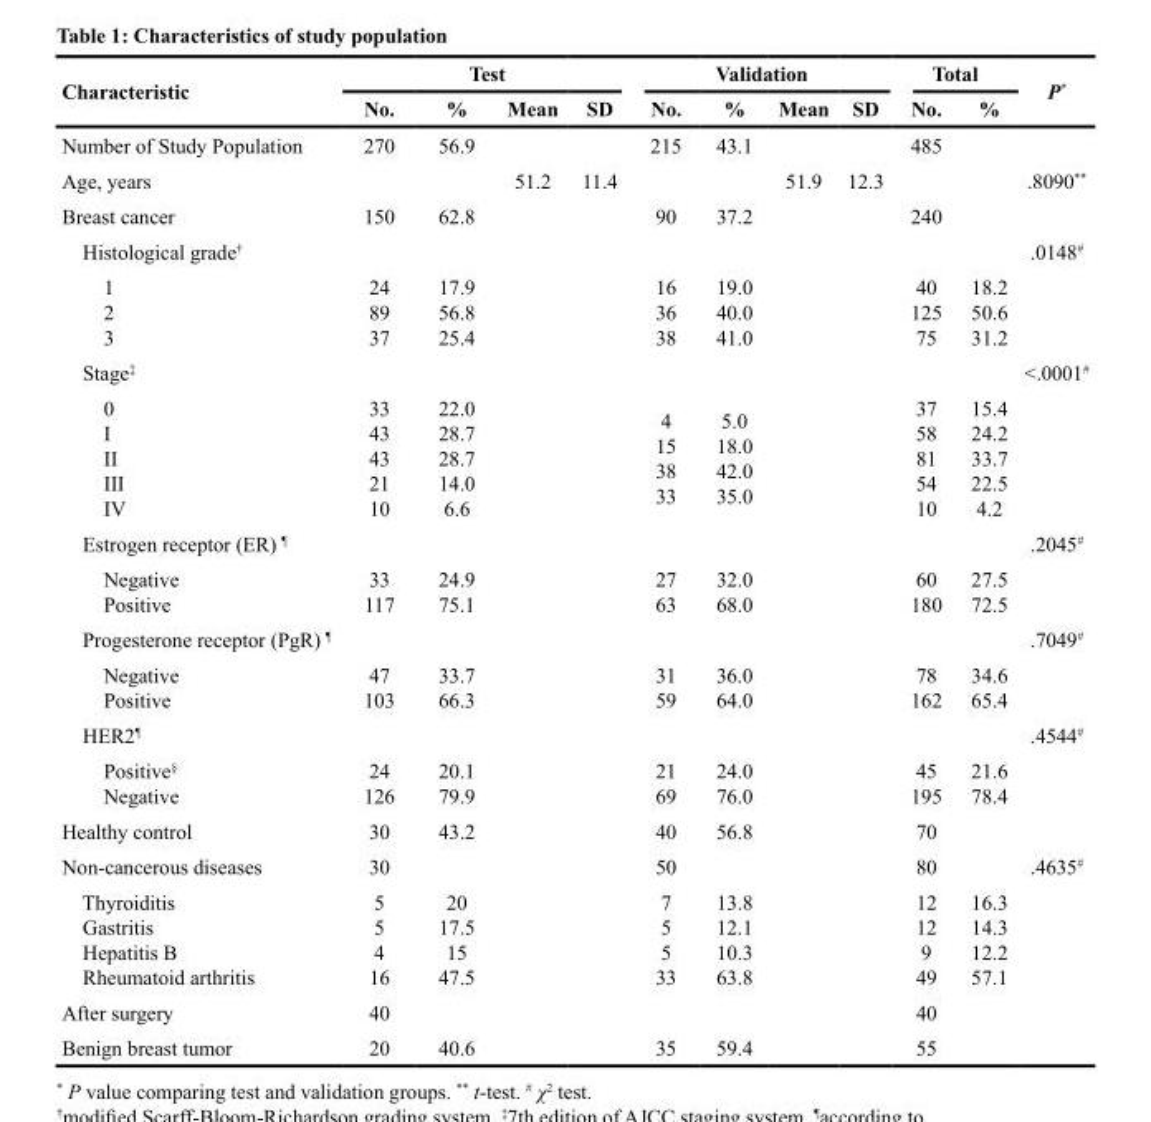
<table><thead><tr><td rowspan="2">Characteristic</td><td colspan="4">Test</td><td colspan="4">Validation</td><td colspan="2">Total</td><td rowspan="2">P*</td></tr><tr><td>No.</td><td>%</td><td>Mean</td><td>SD</td><td>No.</td><td>%</td><td>Mean</td><td>SD</td><td>No.</td><td>%</td></tr></thead><tbody><tr><td>Number of Study Population</td><td>270</td><td>56.9</td><td></td><td></td><td>215</td><td>43.1</td><td></td><td></td><td>485</td><td></td><td></td></tr><tr><td>Age, years</td><td></td><td></td><td>51.2</td><td>11.4</td><td></td><td></td><td>51.9</td><td>12.3</td><td></td><td></td><td>.8090**</td></tr><tr><td>Breast cancer</td><td>150</td><td>62.8</td><td></td><td></td><td>90</td><td>37.2</td><td></td><td></td><td>240</td><td></td><td></td></tr><tr><td>Histological grade<sup>†</sup></td><td></td><td></td><td></td><td></td><td></td><td></td><td></td><td></td><td></td><td></td><td>.0148<sup>#</sup></td></tr><tr><td>1 2 3</td><td>24 89 37</td><td>17.9 56.8 25.4</td><td></td><td></td><td>16 36 38</td><td>19.0 40.0 41.0</td><td></td><td></td><td>40 125 75</td><td>18.2 50.6 31.2</td><td></td></tr><tr><td>Stage<sup>‡</sup></td><td></td><td></td><td></td><td></td><td></td><td></td><td></td><td></td><td></td><td></td><td>&lt;.0001<sup>#</sup></td></tr><tr><td>0 I II III IV</td><td>33 43 43 21 10</td><td>22.0 28.7 28.7 14.0 6.6</td><td></td><td></td><td>4 15 38 33</td><td>5.0 18.0 42.0 35.0</td><td></td><td></td><td>37 58 81 54 10</td><td>15.4 24.2 33.7 22.5 4.2</td><td></td></tr><tr><td>Estrogen receptor (ER) <sup>¶</sup></td><td></td><td></td><td></td><td></td><td></td><td></td><td></td><td></td><td></td><td></td><td>.2045<sup>#</sup></td></tr><tr><td>Negative Positive</td><td>33 117</td><td>24.9 75.1</td><td></td><td></td><td>27 63</td><td>32.0 68.0</td><td></td><td></td><td>60 180</td><td>27.5 72.5</td><td></td></tr><tr><td>Progesterone receptor (PgR) <sup>¶</sup></td><td></td><td></td><td></td><td></td><td></td><td></td><td></td><td></td><td></td><td></td><td>.7049<sup>#</sup></td></tr><tr><td>Negative Positive</td><td>47 103</td><td>33.7 66.3</td><td></td><td></td><td>31 59</td><td>36.0 64.0</td><td></td><td></td><td>78 162</td><td>34.6 65.4</td><td></td></tr><tr><td>HER2<sup>¶</sup></td><td></td><td></td><td></td><td></td><td></td><td></td><td></td><td></td><td></td><td></td><td>.4544<sup>#</sup></td></tr><tr><td>Positive<sup>§</sup> Negative</td><td>24 126</td><td>20.1 79.9</td><td></td><td></td><td>21 69</td><td>24.0 76.0</td><td></td><td></td><td>45 195</td><td>21.6 78.4</td><td></td></tr><tr><td>Healthy control</td><td>30</td><td>43.2</td><td></td><td></td><td>40</td><td>56.8</td><td></td><td></td><td>70</td><td></td><td></td></tr><tr><td>Non-cancerous diseases</td><td>30</td><td></td><td></td><td></td><td>50</td><td></td><td></td><td></td><td>80</td><td></td><td>.4635<sup>#</sup></td></tr><tr><td>Thyroiditis Gastritis Hepatitis B Rheumatoid arthritis</td><td>5 5 4 16</td><td>20 17.5 15 47.5</td><td></td><td></td><td>7 5 5 33</td><td>13.8 12.1 10.3 63.8</td><td></td><td></td><td>12 12 9 49</td><td>16.3 14.3 12.2 57.1</td><td></td></tr><tr><td>After surgery</td><td>40</td><td></td><td></td><td></td><td></td><td></td><td></td><td></td><td>40</td><td></td><td></td></tr><tr><td>Benign breast tumor</td><td>20</td><td>40.6</td><td></td><td></td><td>35</td><td>59.4</td><td></td><td></td><td>55</td><td></td><td></td></tr></tbody></table>